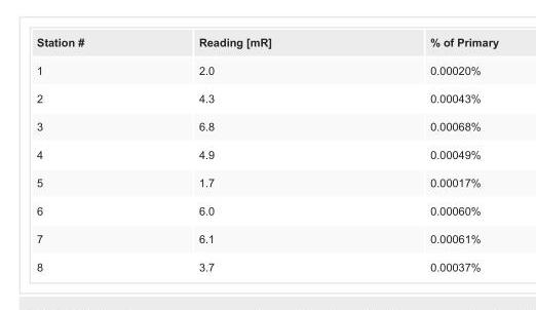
<table><tbody><tr><td>Station #</td><td>Reading [mR]</td><td>% of Primary</td></tr><tr><td>1</td><td>2.0</td><td>0.00020%</td></tr><tr><td>2</td><td>4.3</td><td>0.00043%</td></tr><tr><td>3</td><td>6.8</td><td>0.00068%</td></tr><tr><td>4</td><td>4.9</td><td>0.00049%</td></tr><tr><td>5</td><td>1.7</td><td>0.00017%</td></tr><tr><td>6</td><td>6.0</td><td>0.00060%</td></tr><tr><td>7</td><td>6.1</td><td>0.00061%</td></tr><tr><td>8</td><td>3.7</td><td>0.00037%</td></tr></tbody></table>